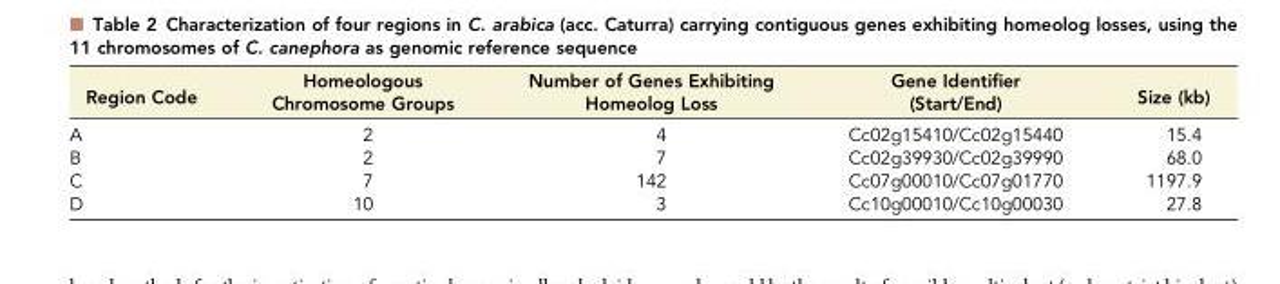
<table><thead><tr><td>Region Code</td><td>Homeologous Chromosome Groups</td><td>Number of Genes Exhibiting Homeolog Loss</td><td>Gene Identifier (Start/End)</td><td>Size (kb)</td></tr></thead><tbody><tr><td>A</td><td>2</td><td>4</td><td>Cc02g15410/Cc02g15440</td><td>15.4</td></tr><tr><td>B</td><td>2</td><td>7</td><td>Cc02g39930/Cc02g39990</td><td>68.0</td></tr><tr><td>C</td><td>7</td><td>142</td><td>Cc07g00010/Cc07g01770</td><td>1197.9</td></tr><tr><td>D</td><td>10</td><td>3</td><td>Cc10g00010/Cc10g00030</td><td>27.8</td></tr></tbody></table>